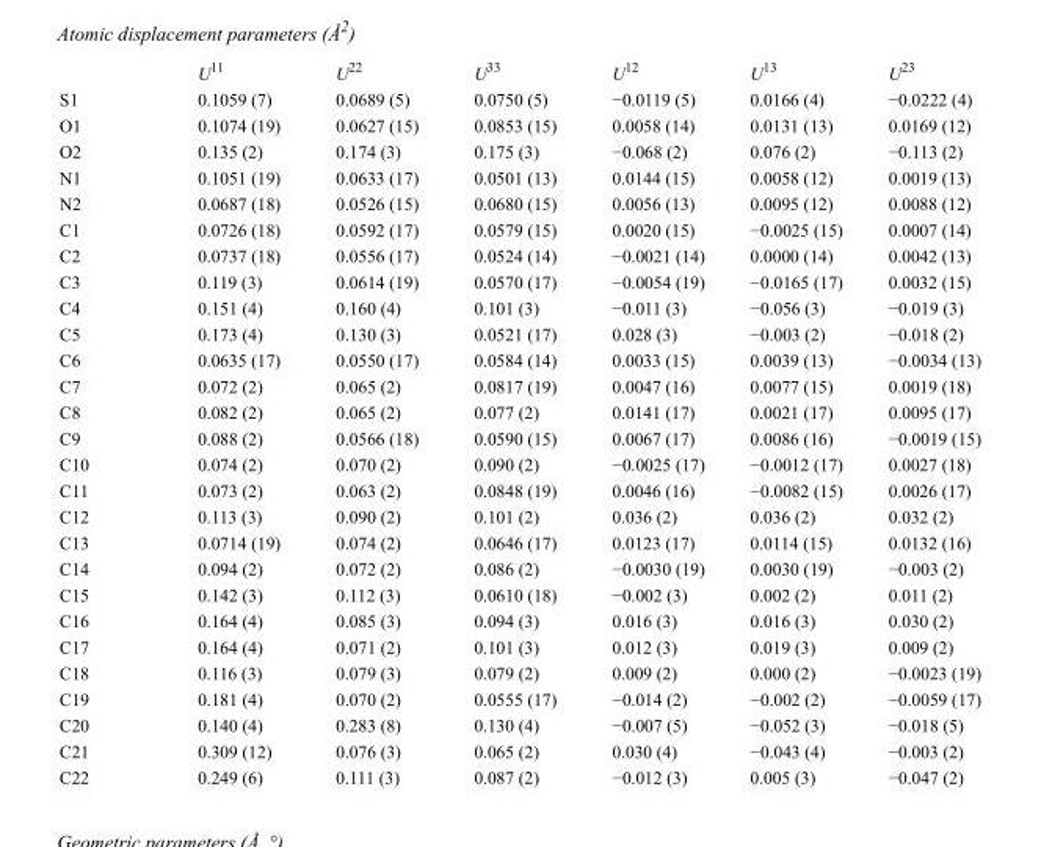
<table><thead><tr><td></td><td>U<sup>11</sup></td><td>U<sup>22</sup></td><td>U<sup>33</sup></td><td>U<sup>12</sup></td><td>U<sup>13</sup></td><td>U<sup>23</sup></td></tr></thead><tbody><tr><td>S1</td><td>0.1059 (7)</td><td>0.0689 (5)</td><td>0.0750 (5)</td><td>−0.0119 (5)</td><td>0.0166 (4)</td><td>−0.0222 (4)</td></tr><tr><td>O1</td><td>0.1074 (19)</td><td>0.0627 (15)</td><td>0.0853 (15)</td><td>0.0058 (14)</td><td>0.0131 (13)</td><td>0.0169 (12)</td></tr><tr><td>O2</td><td>0.135 (2)</td><td>0.174 (3)</td><td>0.175 (3)</td><td>−0.068 (2)</td><td>0.076 (2)</td><td>−0.113 (2)</td></tr><tr><td>N1</td><td>0.1051 (19)</td><td>0.0633 (17)</td><td>0.0501 (13)</td><td>0.0144 (15)</td><td>0.0058 (12)</td><td>0.0019 (13)</td></tr><tr><td>N2</td><td>0.0687 (18)</td><td>0.0526 (15)</td><td>0.0680 (15)</td><td>0.0056 (13)</td><td>0.0095 (12)</td><td>0.0088 (12)</td></tr><tr><td>C1</td><td>0.0726 (18)</td><td>0.0592 (17)</td><td>0.0579 (15)</td><td>0.0020 (15)</td><td>−0.0025 (15)</td><td>0.0007 (14)</td></tr><tr><td>C2</td><td>0.0737 (18)</td><td>0.0556 (17)</td><td>0.0524 (14)</td><td>−0.0021 (14)</td><td>0.0000 (14)</td><td>0.0042 (13)</td></tr><tr><td>C3</td><td>0.119 (3)</td><td>0.0614 (19)</td><td>0.0570 (17)</td><td>−0.0054 (19)</td><td>−0.0165 (17)</td><td>0.0032 (15)</td></tr><tr><td>C4</td><td>0.151 (4)</td><td>0.160 (4)</td><td>0.101 (3)</td><td>−0.011 (3)</td><td>−0.056 (3)</td><td>−0.019 (3)</td></tr><tr><td>C5</td><td>0.173 (4)</td><td>0.130 (3)</td><td>0.0521 (17)</td><td>0.028 (3)</td><td>−0.003 (2)</td><td>−0.018 (2)</td></tr><tr><td>C6</td><td>0.0635 (17)</td><td>0.0550 (17)</td><td>0.0584 (14)</td><td>0.0033 (15)</td><td>0.0039 (13)</td><td>−0.0034 (13)</td></tr><tr><td>C7</td><td>0.072 (2)</td><td>0.065 (2)</td><td>0.0817 (19)</td><td>0.0047 (16)</td><td>0.0077 (15)</td><td>0.0019 (18)</td></tr><tr><td>C8</td><td>0.082 (2)</td><td>0.065 (2)</td><td>0.077 (2)</td><td>0.0141 (17)</td><td>0.0021 (17)</td><td>0.0095 (17)</td></tr><tr><td>C9</td><td>0.088 (2)</td><td>0.0566 (18)</td><td>0.0590 (15)</td><td>0.0067 (17)</td><td>0.0086 (16)</td><td>−0.0019 (15)</td></tr><tr><td>C10</td><td>0.074 (2)</td><td>0.070 (2)</td><td>0.090 (2)</td><td>−0.0025 (17)</td><td>−0.0012 (17)</td><td>0.0027 (18)</td></tr><tr><td>C11</td><td>0.073 (2)</td><td>0.063 (2)</td><td>0.0848 (19)</td><td>0.0046 (16)</td><td>−0.0082 (15)</td><td>0.0026 (17)</td></tr><tr><td>C12</td><td>0.113 (3)</td><td>0.090 (2)</td><td>0.101 (2)</td><td>0.036 (2)</td><td>0.036 (2)</td><td>0.032 (2)</td></tr><tr><td>C13</td><td>0.0714 (19)</td><td>0.074 (2)</td><td>0.0646 (17)</td><td>0.0123 (17)</td><td>0.0114 (15)</td><td>0.0132 (16)</td></tr><tr><td>C14</td><td>0.094 (2)</td><td>0.072 (2)</td><td>0.086 (2)</td><td>−0.0030 (19)</td><td>0.0030 (19)</td><td>−0.003 (2)</td></tr><tr><td>C15</td><td>0.142 (3)</td><td>0.112 (3)</td><td>0.0610 (18)</td><td>−0.002 (3)</td><td>0.002 (2)</td><td>0.011 (2)</td></tr><tr><td>C16</td><td>0.164 (4)</td><td>0.085 (3)</td><td>0.094 (3)</td><td>0.016 (3)</td><td>0.016 (3)</td><td>0.030 (2)</td></tr><tr><td>C17</td><td>0.164 (4)</td><td>0.071 (2)</td><td>0.101 (3)</td><td>0.012 (3)</td><td>0.019 (3)</td><td>0.009 (2)</td></tr><tr><td>C18</td><td>0.116 (3)</td><td>0.079 (3)</td><td>0.079 (2)</td><td>0.009 (2)</td><td>0.000 (2)</td><td>−0.0023 (19)</td></tr><tr><td>C19</td><td>0.181 (4)</td><td>0.070 (2)</td><td>0.0555 (17)</td><td>−0.014 (2)</td><td>−0.002 (2)</td><td>−0.0059 (17)</td></tr><tr><td>C20</td><td>0.140 (4)</td><td>0.283 (8)</td><td>0.130 (4)</td><td>−0.007 (5)</td><td>−0.052 (3)</td><td>−0.018 (5)</td></tr><tr><td>C21</td><td>0.309 (12)</td><td>0.076 (3)</td><td>0.065 (2)</td><td>0.030 (4)</td><td>−0.043 (4)</td><td>−0.003 (2)</td></tr><tr><td>C22</td><td>0.249 (6)</td><td>0.111 (3)</td><td>0.087 (2)</td><td>−0.012 (3)</td><td>0.005 (3)</td><td>−0.047 (2)</td></tr></tbody></table>